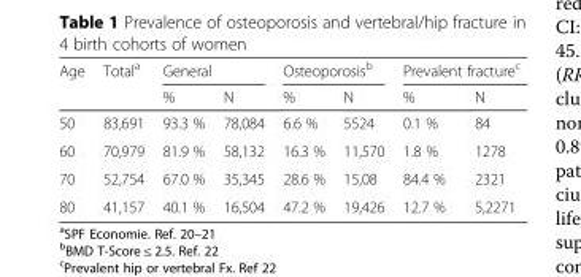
<table><thead><tr><td rowspan="2">Age</td><td rowspan="2">Total<sup>a</sup></td><td colspan="2">General</td><td colspan="2">Osteoporosis<sup>b</sup></td><td colspan="2">Prevalent fracture<sup>c</sup></td></tr><tr><td>%</td><td>N</td><td>%</td><td>N</td><td>%</td><td>N</td></tr></thead><tbody><tr><td>50</td><td>83,691</td><td>93.3 %</td><td>78,084</td><td>6.6 %</td><td>5524</td><td>0.1 %</td><td>84</td></tr><tr><td>60</td><td>70,979</td><td>81.9 %</td><td>58,132</td><td>16.3 %</td><td>11,570</td><td>1.8 %</td><td>1278</td></tr><tr><td>70</td><td>52,754</td><td>67.0 %</td><td>35,345</td><td>28.6 %</td><td>15,08</td><td>84.4 %</td><td>2321</td></tr><tr><td>80</td><td>41,157</td><td>40.1 %</td><td>16,504</td><td>47.2 %</td><td>19,426</td><td>12.7 %</td><td>5,2271</td></tr></tbody></table>